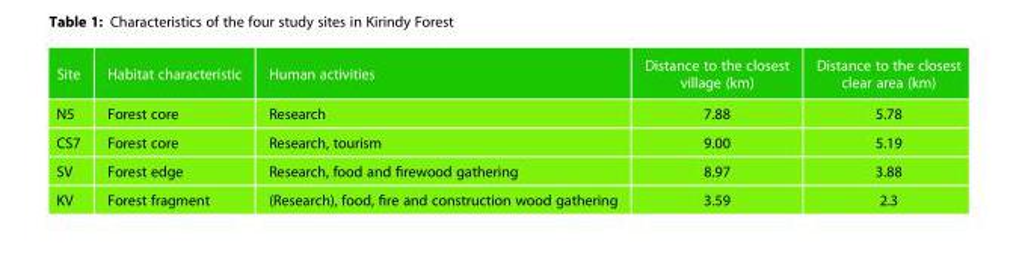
<table><thead><tr><td>Site</td><td>Habitat characteristic</td><td>Human activities</td><td>Distance to the closest village (km)</td><td>Distance to the closest clear area (km)</td></tr></thead><tbody><tr><td>N5</td><td>Forest core</td><td>Research</td><td>7.88</td><td>5.78</td></tr><tr><td>CS7</td><td>Forest core</td><td>Research, tourism</td><td>9.00</td><td>5.19</td></tr><tr><td>SV</td><td>Forest edge</td><td>Research, food and firewood gathering</td><td>8.97</td><td>3.88</td></tr><tr><td>KV</td><td>Forest fragment</td><td>(Research), food, fire and construction wood gathering</td><td>3.59</td><td>2.3</td></tr></tbody></table>